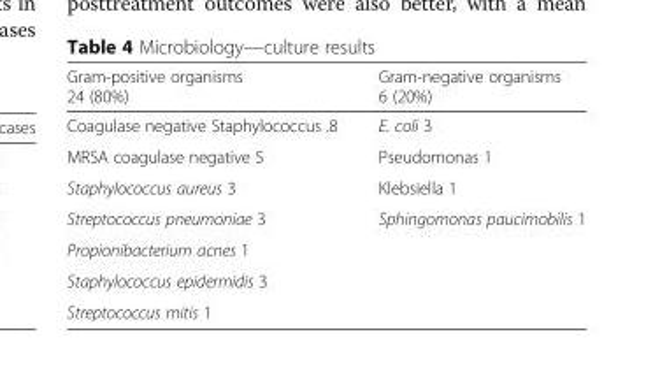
<table><thead><tr><td>Gram-positive organisms 24 (80%)</td><td>Gram-negative organisms 6 (20%)</td></tr></thead><tbody><tr><td>Coagulase negative Staphylococcus .8</td><td>E. coli 3</td></tr><tr><td>MRSA coagulase negative 5</td><td>Pseudomonas 1</td></tr><tr><td>Staphylococcus aureus 3</td><td>Klebsiella 1</td></tr><tr><td>Streptococcus pneumoniae 3</td><td>Sphingomonas paucimobilis 1</td></tr><tr><td colspan="2">Propionibacterium acnes 1</td></tr><tr><td colspan="2">Staphylococcus epidermidis 3</td></tr><tr><td>Streptococcus mitis 1</td><td></td></tr></tbody></table>